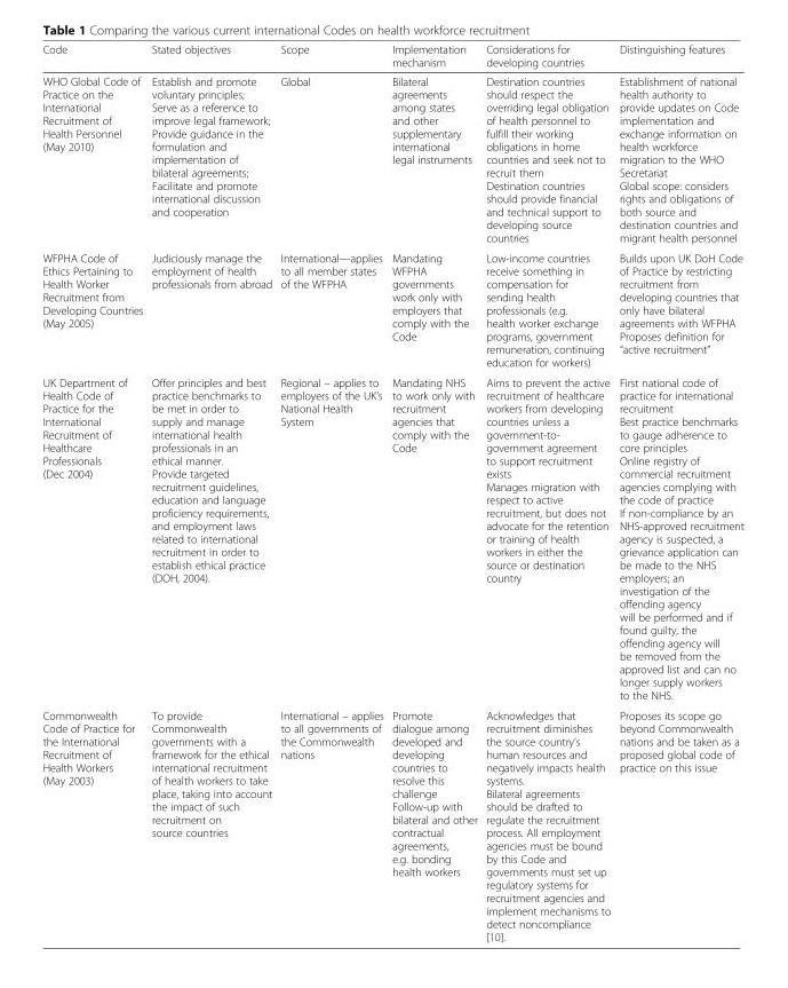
<table><thead><tr><td>Code</td><td>Stated objectives</td><td>Scope</td><td>Implementation mechanism</td><td>Considerations for developing countries</td><td>Distinguishing features</td></tr></thead><tbody><tr><td>WHO Global Code of Practice on the International Recruitment of Health Personnel (May 2010)</td><td>Establish and promote voluntary principles; Serve as a reference to improve legal framework; Provide guidance in the formulation and implementation of bilateral agreements; Facilitate and promote international discussion and cooperation</td><td>Global</td><td>Bilateral agreements among states and other supplementary international legal instruments</td><td>Destination countries should respect the overriding legal obligation of health personnel to fulfill their working obligations in home countries and seek not to recruit them Destination countries should provide financial and technical support to developing source countries</td><td>Establishment of national health authority to provide updates on Code implementation and exchange information on health workforce migration to the WHO Secretariat Global scope: considers rights and obligations of both source and destination countries and migrant health personnel</td></tr><tr><td>WFPHA Code of Ethics Pertaining to Health Worker Recruitment from Developing Countries (May 2005)</td><td>Judiciously manage the employment of health professionals from abroad</td><td>International—applies to all member states of the WFPHA</td><td>Mandating WFPHA governments work only with employers that comply with the Code</td><td>Low-income countries receive something in compensation for sending health professionals (e.g. health worker exchange programs, government remuneration, continuing education for workers)</td><td>Builds upon UK DoH Code of Practice by restricting recruitment from developing countries that only have bilateral agreements with WFPHA Proposes definition for “active recruitment”</td></tr><tr><td>UK Department of Health Code of Practice for the International Recruitment of Healthcare Professionals (Dec 2004)</td><td>Offer principles and best practice benchmarks to be met in order to supply and manage international health professionals in an ethical manner. Provide targeted recruitment guidelines, education and language proficiency requirements, and employment laws related to international recruitment in order to establish ethical practice (DOH, 2004).</td><td>Regional – applies to employers of the UK’s National Health System</td><td>Mandating NHS to work only with recruitment agencies that comply with the Code</td><td>Aims to prevent the active recruitment of healthcare workers from developing countries unless a government-to- government agreement to support recruitment exists Manages migration with respect to active recruitment, but does not advocate for the retention or training of health workers in either the source or destination country</td><td>First national code of practice for international recruitment Best practice benchmarks to gauge adherence to core principles Online registry of commercial recruitment agencies complying with the code of practice If non-compliance by an NHS-approved recruitment agency is suspected, a grievance application can be made to the NHS employers; an investigation of the offending agency will be performed and if found guilty, the offending agency will be removed from the approved list and can no longer supply workers to the NHS.</td></tr><tr><td>Commonwealth Code of Practice for the International Recruitment of Health Workers (May 2003)</td><td>To provide Commonwealth governments with a framework for the ethical international recruitment of health workers to take place, taking into account the impact of such recruitment on source countries</td><td>International – applies to all governments of the Commonwealth nations</td><td>Promote dialogue among developed and developing countries to resolve this challenge Follow-up with bilateral and other contractual agreements, e.g. bonding health workers</td><td>Acknowledges that recruitment diminishes the source country’s human resources and negatively impacts health systems. Bilateral agreements should be drafted to regulate the recruitment process. All employment agencies must be bound by this Code and governments must set up regulatory systems for recruitment agencies and implement mechanisms to detect noncompliance [10].</td><td>Proposes its scope go beyond Commonwealth nations and be taken as a proposed global code of practice on this issue</td></tr></tbody></table>